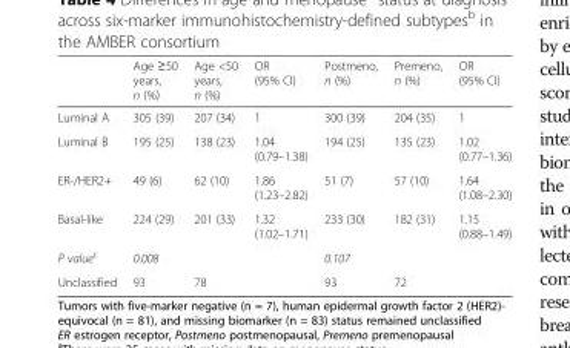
<table><thead><tr><td></td><td>Age ≥50 years, n (%)</td><td>Age &lt;50 years, n (%)</td><td>OR (95% CI)</td><td>Postmeno, n (%)</td><td>Premeno, n (%)</td><td>OR (95% CI)</td></tr></thead><tbody><tr><td>Luminal A</td><td>305 (39)</td><td>207 (34)</td><td>1</td><td>300 (39)</td><td>204 (35)</td><td>1</td></tr><tr><td>Luminal B</td><td>195 (25)</td><td>138 (23)</td><td>1.04 (0.79–1.38)</td><td>194 (25)</td><td>135 (23)</td><td>1.02 (0.77–1.36)</td></tr><tr><td>ER-/HER2+</td><td>49 (6)</td><td>62 (10)</td><td>1.86 (1.23–2.82)</td><td>51 (7)</td><td>57 (10)</td><td>1.64 (1.08–2.30)</td></tr><tr><td>Basal-like</td><td>224 (29)</td><td>201 (33)</td><td>1.32 (1.02–1.71)</td><td>233 (30)</td><td>182 (31)</td><td>1.15 (0.88–1.49)</td></tr><tr><td>P value<sup>c</sup></td><td colspan="2">0.008</td><td></td><td colspan="2">0.107</td><td></td></tr><tr><td>Unclassified</td><td>93</td><td>78</td><td></td><td>93</td><td>72</td><td></td></tr></tbody></table>